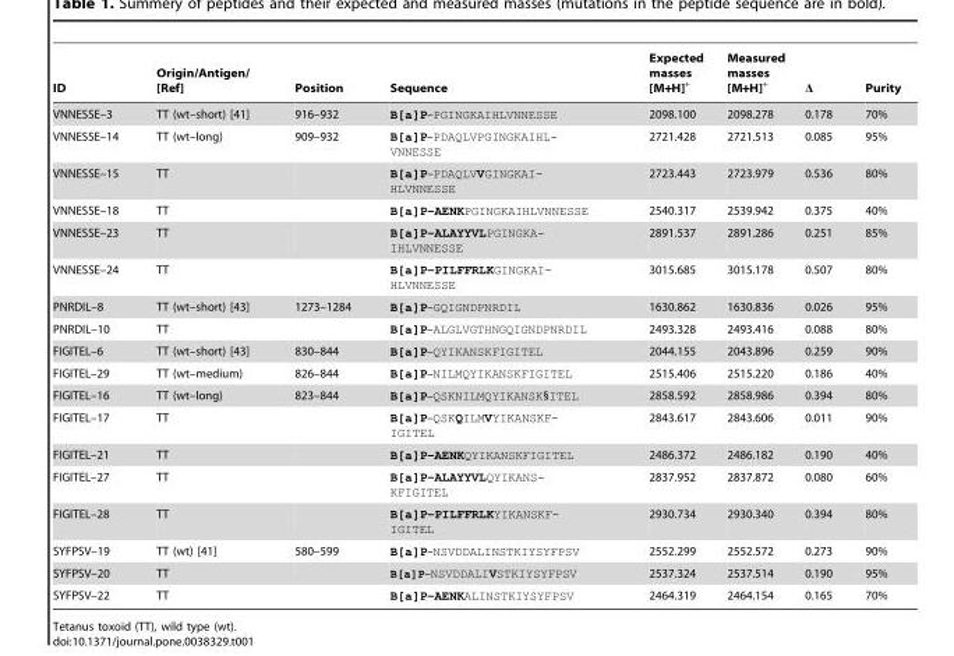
<table><thead><tr><td>ID</td><td>Origin/Antigen/ [Ref]</td><td>Position</td><td>Sequence</td><td>Expected masses [M+H]<sup>+</sup></td><td>Measured masses [M+H]<sup>+</sup></td><td>Δ</td><td>Purity</td></tr></thead><tbody><tr><td>VNNESSE–3</td><td>TT (wt–short) [41]</td><td>916–932</td><td>B[a]P–PGINGKAIHLVNNESSE</td><td>2098.100</td><td>2098.278</td><td>0.178</td><td>70%</td></tr><tr><td>VNNESSE–14</td><td>TT (wt–long)</td><td>909–932</td><td>B[a]P–PDAQLVPGINGKAIHL- VNNESSE</td><td>2721.428</td><td>2721.513</td><td>0.085</td><td>95%</td></tr><tr><td>VNNESSE–15</td><td>TT</td><td></td><td>B[a]P–PDAQLVVGINGKAI- HLVNNESSE</td><td>2723.443</td><td>2723.979</td><td>0.536</td><td>80%</td></tr><tr><td>VNNESSE–18</td><td>TT</td><td></td><td>B[a]P–AENKPGINGKAIHLVNNESSE</td><td>2540.317</td><td>2539.942</td><td>0.375</td><td>40%</td></tr><tr><td>VNNESSE–23</td><td>TT</td><td></td><td>B[a]P–ALAYYVLPGINGKA- IHLVNNESSE</td><td>2891.537</td><td>2891.286</td><td>0.251</td><td>85%</td></tr><tr><td>VNNESSE–24</td><td>TT</td><td></td><td>B[a]P–PILFFRLKGINGKAI- HLVNNESSE</td><td>3015.685</td><td>3015.178</td><td>0.507</td><td>80%</td></tr><tr><td>PNRDIL–8</td><td>TT (wt–short) [43]</td><td>1273–1284</td><td>B[a]P–GQIGNDPNRDIL</td><td>1630.862</td><td>1630.836</td><td>0.026</td><td>95%</td></tr><tr><td>PNRDIL–10</td><td>TT</td><td></td><td>B[a]P–ALGLVGTHNGQIGNDPNRDIL</td><td>2493.328</td><td>2493.416</td><td>0.088</td><td>80%</td></tr><tr><td>FIGITEL–6</td><td>TT (wt–short) [43]</td><td>830–844</td><td>B[a]P–QYIKANSKFIGITEL</td><td>2044.155</td><td>2043.896</td><td>0.259</td><td>90%</td></tr><tr><td>FIGITEL–29</td><td>TT (wt–medium)</td><td>826–844</td><td>B[a]P–NILMQYIKANSKFIGITEL</td><td>2515.406</td><td>2515.220</td><td>0.186</td><td>40%</td></tr><tr><td>FIGITEL–16</td><td>TT (wt–long)</td><td>823–844</td><td>B[a]P–QSKNILMQYIKANSK§ITEL</td><td>2858.592</td><td>2858.986</td><td>0.394</td><td>80%</td></tr><tr><td>FIGITEL–17</td><td>TT</td><td></td><td>B[a]P–QSKQILMVYIKANSKF- IGITEL</td><td>2843.617</td><td>2843.606</td><td>0.011</td><td>90%</td></tr><tr><td>FIGITEL–21</td><td>TT</td><td></td><td>B[a]P–AENKQYIKANSKFIGITEL</td><td>2486.372</td><td>2486.182</td><td>0.190</td><td>40%</td></tr><tr><td>FIGITEL–27</td><td>TT</td><td></td><td>B[a]P–ALAYYVLQYIKANS- KFIGITEL</td><td>2837.952</td><td>2837.872</td><td>0.080</td><td>60%</td></tr><tr><td>FIGITEL–28</td><td>TT</td><td></td><td>B[a]P–PILFFRLKYIKANSKF- IGITEL</td><td>2930.734</td><td>2930.340</td><td>0.394</td><td>80%</td></tr><tr><td>SYFPSV–19</td><td>TT (wt) [41]</td><td>580–599</td><td>B[a]P–NSVDDALINSTKIYSYFPSV</td><td>2552.299</td><td>2552.572</td><td>0.273</td><td>90%</td></tr><tr><td>SYFPSV–20</td><td>TT</td><td></td><td>B[a]P–NSVDDALIVSTKIYSYFPSV</td><td>2537.324</td><td>2537.514</td><td>0.190</td><td>95%</td></tr><tr><td>SYFPSV–22</td><td>TT</td><td></td><td>B[a]P–AENKALINSTKIYSYFPSV</td><td>2464.319</td><td>2464.154</td><td>0.165</td><td>70%</td></tr></tbody></table>